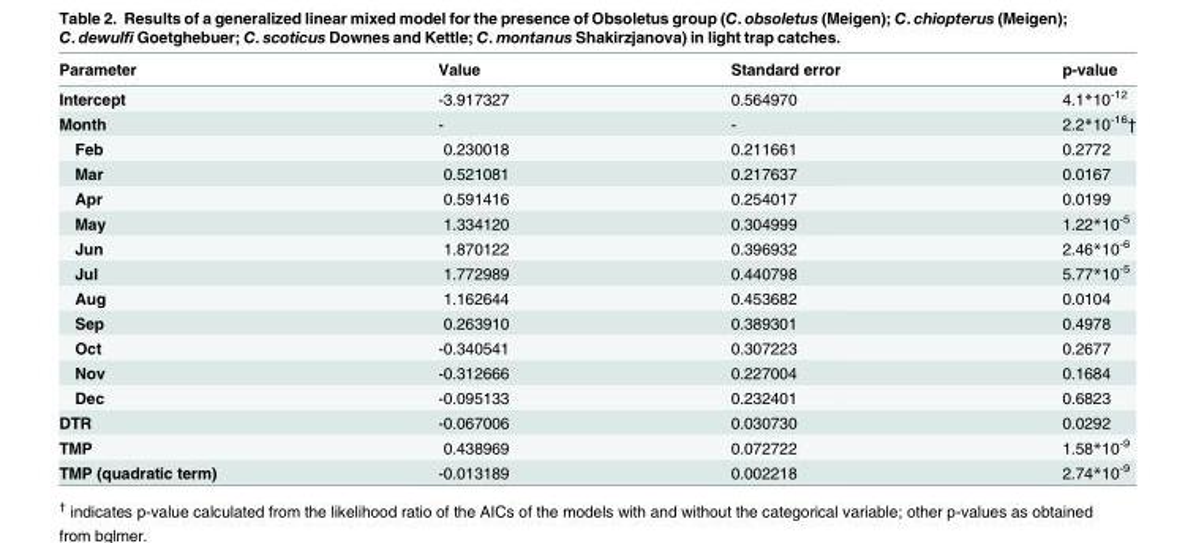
<table><thead><tr><td>Parameter</td><td>Value</td><td>Standard error</td><td>p-value</td></tr></thead><tbody><tr><td>Intercept</td><td>-3.917327</td><td>0.564970</td><td>4.1*10<sup>-12</sup></td></tr><tr><td>Month</td><td>-</td><td>-</td><td>2.2*10<sup>-16</sup>†</td></tr><tr><td>Feb</td><td>0.230018</td><td>0.211661</td><td>0.2772</td></tr><tr><td>Mar</td><td>0.521081</td><td>0.217637</td><td>0.0167</td></tr><tr><td>Apr</td><td>0.591416</td><td>0.254017</td><td>0.0199</td></tr><tr><td>May</td><td>1.334120</td><td>0.304999</td><td>1.22*10<sup>-5</sup></td></tr><tr><td>Jun</td><td>1.870122</td><td>0.396932</td><td>2.46*10<sup>-6</sup></td></tr><tr><td>Jul</td><td>1.772989</td><td>0.440798</td><td>5.77*10<sup>-5</sup></td></tr><tr><td>Aug</td><td>1.162644</td><td>0.453682</td><td>0.0104</td></tr><tr><td>Sep</td><td>0.263910</td><td>0.389301</td><td>0.4978</td></tr><tr><td>Oct</td><td>-0.340541</td><td>0.307223</td><td>0.2677</td></tr><tr><td>Nov</td><td>-0.312666</td><td>0.227004</td><td>0.1684</td></tr><tr><td>Dec</td><td>-0.095133</td><td>0.232401</td><td>0.6823</td></tr><tr><td>DTR</td><td>-0.067006</td><td>0.030730</td><td>0.0292</td></tr><tr><td>TMP</td><td>0.438969</td><td>0.072722</td><td>1.58*10<sup>-9</sup></td></tr><tr><td>TMP (quadratic term)</td><td>-0.013189</td><td>0.002218</td><td>2.74*10<sup>-9</sup></td></tr></tbody></table>